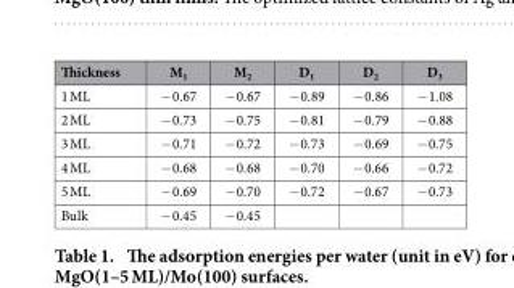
<table><thead><tr><td>Thickness</td><td>M<sub>1</sub></td><td>M<sub>2</sub></td><td>D<sub>1</sub></td><td>D<sub>2</sub></td><td>D<sub>3</sub></td></tr></thead><tbody><tr><td>1 ML</td><td>− 0.67</td><td>− 0.67</td><td>− 0.89</td><td>− 0.86</td><td>− 1.08</td></tr><tr><td>2 ML</td><td>− 0.73</td><td>− 0.75</td><td>− 0.81</td><td>− 0.79</td><td>− 0.88</td></tr><tr><td>3 ML</td><td>− 0.71</td><td>− 0.72</td><td>− 0.73</td><td>− 0.69</td><td>− 0.75</td></tr><tr><td>4 ML</td><td>− 0.68</td><td>− 0.68</td><td>− 0.70</td><td>− 0.66</td><td>− 0.72</td></tr><tr><td>5 ML</td><td>− 0.69</td><td>− 0.70</td><td>− 0.72</td><td>− 0.67</td><td>− 0.73</td></tr><tr><td>Bulk</td><td>− 0.45</td><td>− 0.45</td><td></td><td></td><td></td></tr></tbody></table>